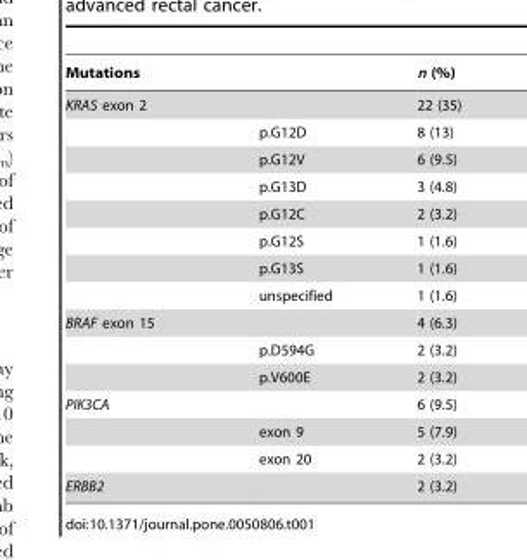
<table><thead><tr><td>Mutations</td><td></td><td>n (%)</td></tr></thead><tbody><tr><td rowspan="8">KRAS exon 2</td><td></td><td>22 (35)</td></tr><tr><td>p.G12D</td><td>8 (13)</td></tr><tr><td>p.G12V</td><td>6 (9.5)</td></tr><tr><td>p.G13D</td><td>3 (4.8)</td></tr><tr><td>p.G12C</td><td>2 (3.2)</td></tr><tr><td>p.G12S</td><td>1 (1.6)</td></tr><tr><td>p.G13S</td><td>1 (1.6)</td></tr><tr><td>unspecified</td><td>1 (1.6)</td></tr><tr><td rowspan="3">BRAF exon 15</td><td></td><td>4 (6.3)</td></tr><tr><td>p.D594G</td><td>2 (3.2)</td></tr><tr><td>p.V600E</td><td>2 (3.2)</td></tr><tr><td rowspan="3">PIK3CA</td><td></td><td>6 (9.5)</td></tr><tr><td>exon 9</td><td>5 (7.9)</td></tr><tr><td>exon 20</td><td>2 (3.2)</td></tr><tr><td>ERBB2</td><td></td><td>2 (3.2)</td></tr></tbody></table>